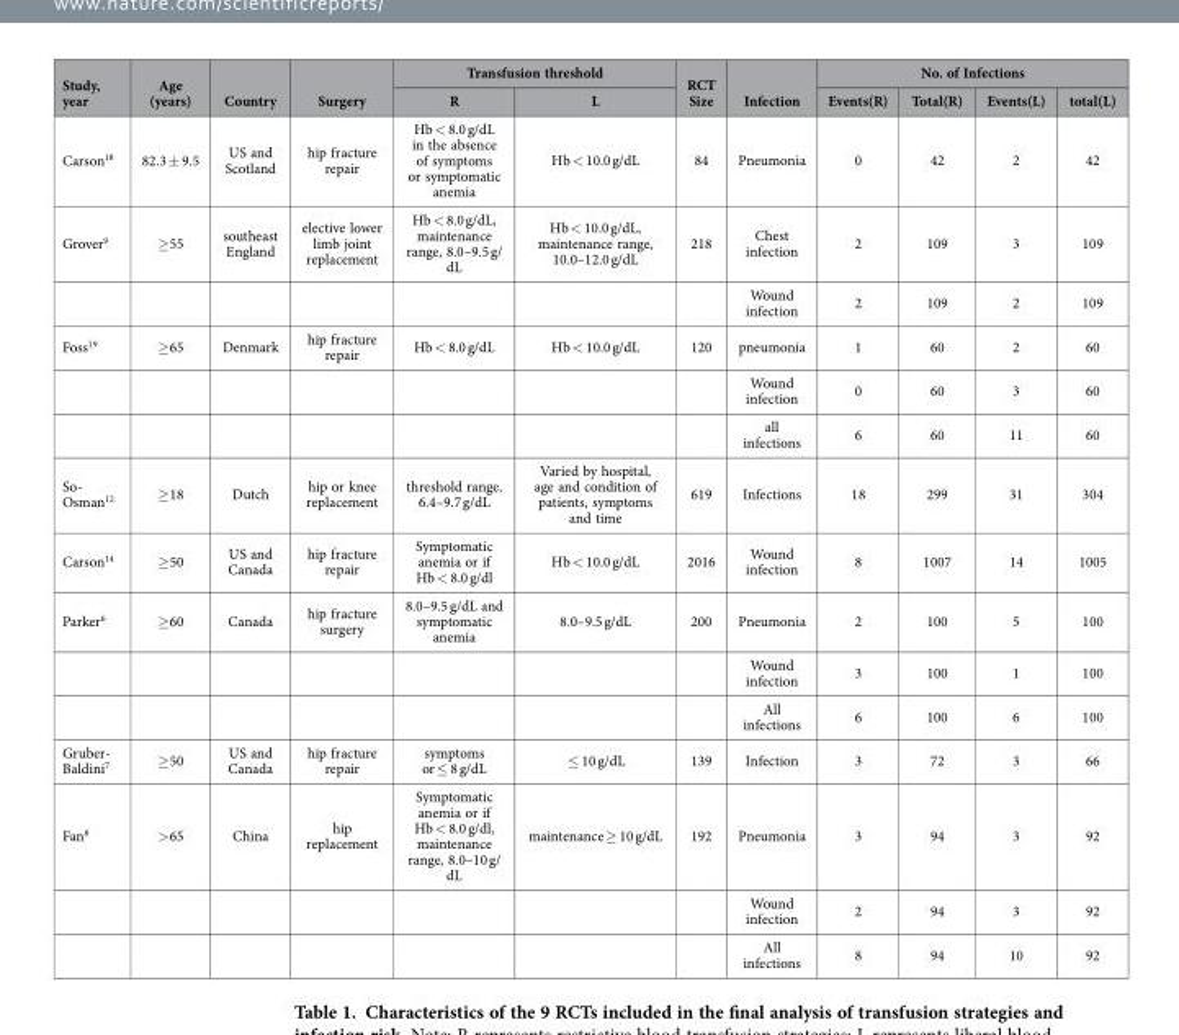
<table><thead><tr><td rowspan="2">Study, year</td><td rowspan="2">Age (years)</td><td rowspan="2">Country</td><td rowspan="2">Surgery</td><td colspan="2">Transfusion threshold</td><td rowspan="2">RCT Size</td><td rowspan="2">Infection</td><td colspan="4">No. of Infections</td></tr><tr><td>R</td><td>L</td><td>Events(R)</td><td>Total(R)</td><td>Events(L)</td><td>total(L)</td></tr></thead><tbody><tr><td>Carson<sup>18</sup></td><td>82.3 ± 9.5</td><td>US and Scotland</td><td>hip fracture repair</td><td>Hb &lt; 8.0 g/dL in the absence of symptoms or symptomatic anemia</td><td>Hb &lt; 10.0 g/dL</td><td>84</td><td>Pneumonia</td><td>0</td><td>42</td><td>2</td><td>42</td></tr><tr><td rowspan="2">Grover<sup>9</sup></td><td>≥ 55</td><td>southeast England</td><td>elective lower limb joint replacement</td><td>Hb &lt; 8.0 g/dL, maintenance range, 8.0–9.5 g/ dL</td><td>Hb &lt; 10.0 g/dL, maintenance range, 10.0–12.0 g/dL</td><td>218</td><td>Chest infection</td><td>2</td><td>109</td><td>3</td><td>109</td></tr><tr><td></td><td></td><td></td><td></td><td></td><td></td><td>Wound infection</td><td>2</td><td>109</td><td>2</td><td>109</td></tr><tr><td rowspan="3">Foss<sup>19</sup></td><td>≥ 65</td><td>Denmark</td><td>hip fracture repair</td><td>Hb &lt; 8.0 g/dL</td><td>Hb &lt; 10.0 g/dL</td><td>120</td><td>pneumonia</td><td>1</td><td>60</td><td>2</td><td>60</td></tr><tr><td></td><td></td><td></td><td></td><td></td><td></td><td>Wound infection</td><td>0</td><td>60</td><td>3</td><td>60</td></tr><tr><td></td><td></td><td></td><td></td><td></td><td></td><td>all infections</td><td>6</td><td>60</td><td>11</td><td>60</td></tr><tr><td>So- Osman<sup>12</sup></td><td>≥ 18</td><td>Dutch</td><td>hip or knee replacement</td><td>threshold range, 6.4–9.7 g/dL</td><td>Varied by hospital, age and condition of patients, symptoms and time</td><td>619</td><td>Infections</td><td>18</td><td>299</td><td>31</td><td>304</td></tr><tr><td>Carson<sup>14</sup></td><td>≥ 50</td><td>US and Canada</td><td>hip fracture repair</td><td>Symptomatic anemia or if Hb &lt; 8.0 g/dl</td><td>Hb &lt; 10.0 g/dL</td><td>2016</td><td>Wound infection</td><td>8</td><td>1007</td><td>14</td><td>1005</td></tr><tr><td rowspan="3">Parker<sup>6</sup></td><td>≥ 60</td><td>Canada</td><td>hip fracture surgery</td><td>8.0–9.5 g/dL and symptomatic anemia</td><td>8.0–9.5 g/dL</td><td>200</td><td>Pneumonia</td><td>2</td><td>100</td><td>5</td><td>100</td></tr><tr><td></td><td></td><td></td><td></td><td></td><td></td><td>Wound infection</td><td>3</td><td>100</td><td>1</td><td>100</td></tr><tr><td></td><td></td><td></td><td></td><td></td><td></td><td>All infections</td><td>6</td><td>100</td><td>6</td><td>100</td></tr><tr><td>Gruber- Baldini<sup>7</sup></td><td>≥ 50</td><td>US and Canada</td><td>hip fracture repair</td><td>symptoms or ≤ 8 g/dL</td><td>≤ 10 g/dL</td><td>139</td><td>Infection</td><td>3</td><td>72</td><td>3</td><td>66</td></tr><tr><td rowspan="3">Fan<sup>8</sup></td><td>&gt; 65</td><td>China</td><td>hip replacement</td><td>Symptomatic anemia or if Hb &lt; 8.0 g/dl, maintenance range, 8.0–10 g/ dL</td><td>maintenance ≥ 10 g/dL</td><td>192</td><td>Pneumonia</td><td>3</td><td>94</td><td>3</td><td>92</td></tr><tr><td></td><td></td><td></td><td></td><td></td><td></td><td>Wound infection</td><td>2</td><td>94</td><td>3</td><td>92</td></tr><tr><td></td><td></td><td></td><td></td><td></td><td></td><td>All infections</td><td>8</td><td>94</td><td>10</td><td>92</td></tr></tbody></table>